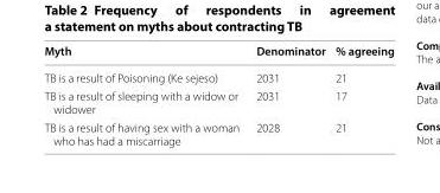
<table><thead><tr><td>Myth</td><td>Denominator</td><td>% agreeing</td></tr></thead><tbody><tr><td>TB is a result of Poisoning (Ke sejeso)</td><td>2031</td><td>21</td></tr><tr><td>TB is a result of sleeping with a widow or widower</td><td>2031</td><td>17</td></tr><tr><td>TB is a result of having sex with a woman who has had a miscarriage</td><td>2028</td><td>21</td></tr></tbody></table>